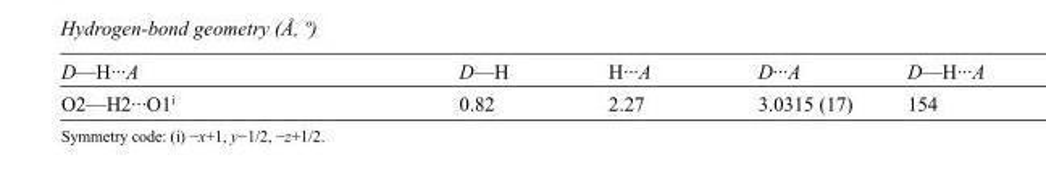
<table><tbody><tr><td>D—H···A</td><td>D—H</td><td>H···A</td><td>D···A</td><td>D—H···A</td></tr><tr><td>O2—H2···O1<sup>i</sup></td><td>0.82</td><td>2.27</td><td>3.0315 (17)</td><td>154</td></tr></tbody></table>